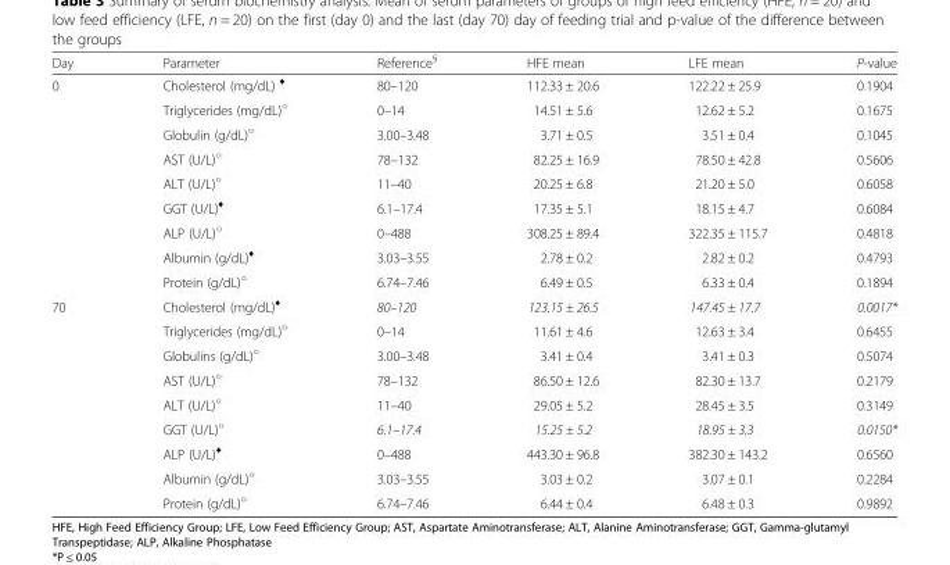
<table><thead><tr><td>Day</td><td>Parameter</td><td>Reference<sup>§</sup></td><td>HFE mean</td><td>LFE mean</td><td>P-value</td></tr></thead><tbody><tr><td rowspan="9">0</td><td>Cholesterol (mg/dL) <sup>♦</sup></td><td>80–120</td><td>112.33 ± 20.6</td><td>122.22 ± 25.9</td><td>0.1904</td></tr><tr><td>Triglycerides (mg/dL)<sup>○</sup></td><td>0–14</td><td>14.51 ± 5.6</td><td>12.62 ± 5.2</td><td>0.1675</td></tr><tr><td>Globulin (g/dL)<sup>○</sup></td><td>3.00–3.48</td><td>3.71 ± 0.5</td><td>3.51 ± 0.4</td><td>0.1045</td></tr><tr><td>AST (U/L)<sup>○</sup></td><td>78–132</td><td>82.25 ± 16.9</td><td>78.50 ± 42.8</td><td>0.5606</td></tr><tr><td>ALT (U/L)<sup>○</sup></td><td>11–40</td><td>20.25 ± 6.8</td><td>21.20 ± 5.0</td><td>0.6058</td></tr><tr><td>GGT (U/L)<sup>♦</sup></td><td>6.1–17.4</td><td>17.35 ± 5.1</td><td>18.15 ± 4.7</td><td>0.6084</td></tr><tr><td>ALP (U/L)<sup>○</sup></td><td>0–488</td><td>308.25 ± 89.4</td><td>322.35 ± 115.7</td><td>0.4818</td></tr><tr><td>Albumin (g/dL)<sup>♦</sup></td><td>3.03–3.55</td><td>2.78 ± 0.2</td><td>2.82 ± 0.2</td><td>0.4793</td></tr><tr><td>Protein (g/dL)<sup>○</sup></td><td>6.74–7.46</td><td>6.49 ± 0.5</td><td>6.33 ± 0.4</td><td>0.1894</td></tr><tr><td rowspan="9">70</td><td>Cholesterol (mg/dL)<sup>♦</sup></td><td>80–120</td><td>123.15 ± 26.5</td><td>147.45 ± 17.7</td><td>0.0017*</td></tr><tr><td>Triglycerides (mg/dL)<sup>○</sup></td><td>0–14</td><td>11.61 ± 4.6</td><td>12.63 ± 3.4</td><td>0.6455</td></tr><tr><td>Globulins (g/dL)<sup>○</sup></td><td>3.00–3.48</td><td>3.41 ± 0.4</td><td>3.41 ± 0.3</td><td>0.5074</td></tr><tr><td>AST (U/L)<sup>○</sup></td><td>78–132</td><td>86.50 ± 12.6</td><td>82.30 ± 13.7</td><td>0.2179</td></tr><tr><td>ALT (U/L)<sup>○</sup></td><td>11–40</td><td>29.05 ± 5.2</td><td>28.45 ± 3.5</td><td>0.3149</td></tr><tr><td>GGT (U/L)<sup>○</sup></td><td>6.1–17.4</td><td>15.25 ± 5.2</td><td>18.95 ± 3.3</td><td>0.0150*</td></tr><tr><td>ALP (U/L)<sup>♦</sup></td><td>0–488</td><td>443.30 ± 96.8</td><td>382.30 ± 143.2</td><td>0.6560</td></tr><tr><td>Albumin (g/dL)<sup>○</sup></td><td>3.03–3.55</td><td>3.03 ± 0.2</td><td>3.07 ± 0.1</td><td>0.2284</td></tr><tr><td>Protein (g/dL)<sup>○</sup></td><td>6.74–7.46</td><td>6.44 ± 0.4</td><td>6.48 ± 0.3</td><td>0.9892</td></tr></tbody></table>